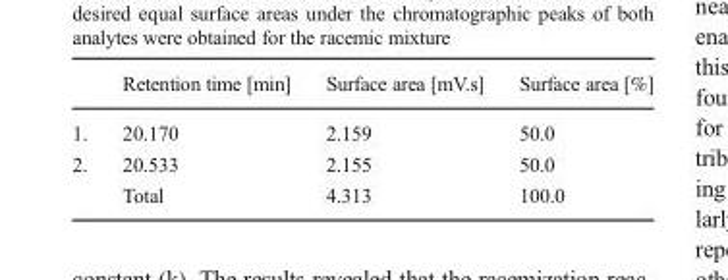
<table><thead><tr><td></td><td>Retention time [min]</td><td>Surface area [mV.s]</td><td>Surface area [%]</td></tr></thead><tbody><tr><td>1.</td><td>20.170</td><td>2.159</td><td>50.0</td></tr><tr><td rowspan="2">2.</td><td>20.533</td><td>2.155</td><td>50.0</td></tr><tr><td>Total</td><td>4.313</td><td>100.0</td></tr></tbody></table>